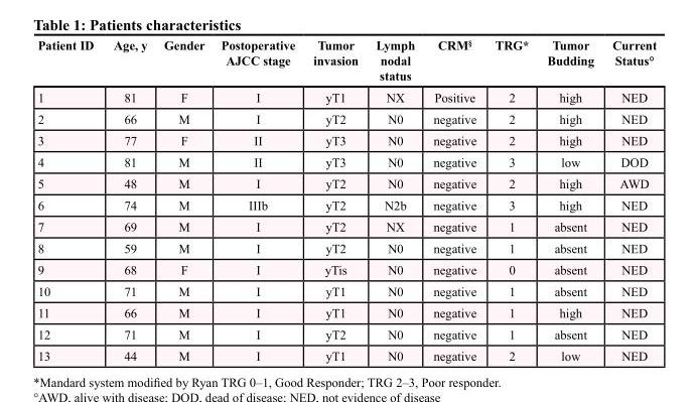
<table><thead><tr><td>Patient ID</td><td>Age, y</td><td>Gender</td><td>Postoperative AJCC stage</td><td>Tumor invasion</td><td>Lymph nodal status</td><td>CRM<sup>§</sup></td><td>TRG*</td><td>Tumor Budding</td><td>Current Status°</td></tr></thead><tbody><tr><td>1</td><td>81</td><td>F</td><td>I</td><td>yT1</td><td>NX</td><td>Positive</td><td>2</td><td>high</td><td>NED</td></tr><tr><td>2</td><td>66</td><td>M</td><td>I</td><td>yT2</td><td>N0</td><td>negative</td><td>2</td><td>high</td><td>NED</td></tr><tr><td>3</td><td>77</td><td>F</td><td>II</td><td>yT3</td><td>N0</td><td>negative</td><td>2</td><td>high</td><td>NED</td></tr><tr><td>4</td><td>81</td><td>M</td><td>II</td><td>yT3</td><td>N0</td><td>negative</td><td>3</td><td>low</td><td>DOD</td></tr><tr><td>5</td><td>48</td><td>M</td><td>I</td><td>yT2</td><td>N0</td><td>negative</td><td>2</td><td>high</td><td>AWD</td></tr><tr><td>6</td><td>74</td><td>M</td><td>IIIb</td><td>yT2</td><td>N2b</td><td>negative</td><td>3</td><td>high</td><td>NED</td></tr><tr><td>7</td><td>69</td><td>M</td><td>I</td><td>yT2</td><td>NX</td><td>negative</td><td>1</td><td>absent</td><td>NED</td></tr><tr><td>8</td><td>59</td><td>M</td><td>I</td><td>yT2</td><td>N0</td><td>negative</td><td>1</td><td>absent</td><td>NED</td></tr><tr><td>9</td><td>68</td><td>F</td><td>I</td><td>yTis</td><td>N0</td><td>negative</td><td>0</td><td>absent</td><td>NED</td></tr><tr><td>10</td><td>71</td><td>M</td><td>I</td><td>yT1</td><td>N0</td><td>negative</td><td>1</td><td>absent</td><td>NED</td></tr><tr><td>11</td><td>66</td><td>M</td><td>I</td><td>yT1</td><td>N0</td><td>negative</td><td>1</td><td>high</td><td>NED</td></tr><tr><td>12</td><td>71</td><td>M</td><td>I</td><td>yT2</td><td>N0</td><td>negative</td><td>1</td><td>absent</td><td>NED</td></tr><tr><td>13</td><td>44</td><td>M</td><td>I</td><td>yT1</td><td>N0</td><td>negative</td><td>2</td><td>low</td><td>NED</td></tr></tbody></table>